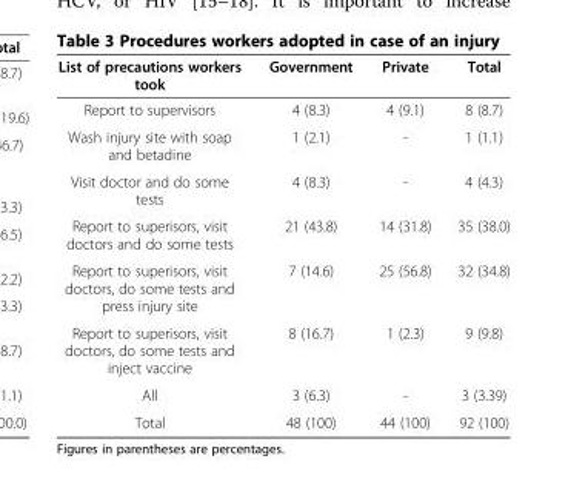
<table><thead><tr><td>List of precautions workers took</td><td>Government</td><td>Private</td><td>Total</td></tr></thead><tbody><tr><td>Report to supervisors</td><td>4 (8.3)</td><td>4 (9.1)</td><td>8 (8.7)</td></tr><tr><td>Wash injury site with soap and betadine</td><td>1 (2.1)</td><td>-</td><td>1 (1.1)</td></tr><tr><td>Visit doctor and do some tests</td><td>4 (8.3)</td><td>-</td><td>4 (4.3)</td></tr><tr><td>Report to superisors, visit doctors and do some tests</td><td>21 (43.8)</td><td>14 (31.8)</td><td>35 (38.0)</td></tr><tr><td>Report to superisors, visit doctors, do some tests and press injury site</td><td>7 (14.6)</td><td>25 (56.8)</td><td>32 (34.8)</td></tr><tr><td>Report to superisors, visit doctors, do some tests and inject vaccine</td><td>8 (16.7)</td><td>1 (2.3)</td><td>9 (9.8)</td></tr><tr><td>All</td><td>3 (6.3)</td><td>-</td><td>3 (3.39)</td></tr><tr><td>Total</td><td>48 (100)</td><td>44 (100)</td><td>92 (100)</td></tr></tbody></table>